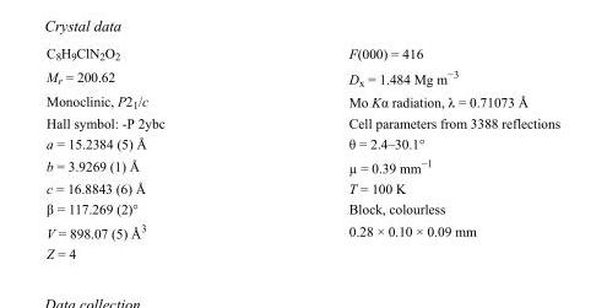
<table><tbody><tr><td>C<sub>8</sub>H<sub>9</sub>ClN<sub>2</sub>O<sub>2</sub></td><td>F(000) = 416</td></tr><tr><td>M<sub>r</sub> = 200.62</td><td>D<sub>x</sub> = 1.484 Mg m<sup>−3</sup></td></tr><tr><td>Monoclinic, P2<sub>1</sub>/c</td><td>Mo Kα radiation, λ = 0.71073 Å</td></tr><tr><td>Hall symbol: -P 2ybc</td><td>Cell parameters from 3388 reflections</td></tr><tr><td>a = 15.2384 (5) Å</td><td>θ = 2.4–30.1°</td></tr><tr><td>b = 3.9269 (1) Å</td><td>µ = 0.39 mm<sup>−1</sup></td></tr><tr><td>c = 16.8843 (6) Å</td><td>T = 100 K</td></tr><tr><td>β = 117.269 (2)°</td><td>Block, colourless</td></tr><tr><td>V = 898.07 (5) Å<sup>3</sup></td><td>0.28 × 0.10 × 0.09 mm</td></tr><tr><td>Z = 4</td><td></td></tr></tbody></table>